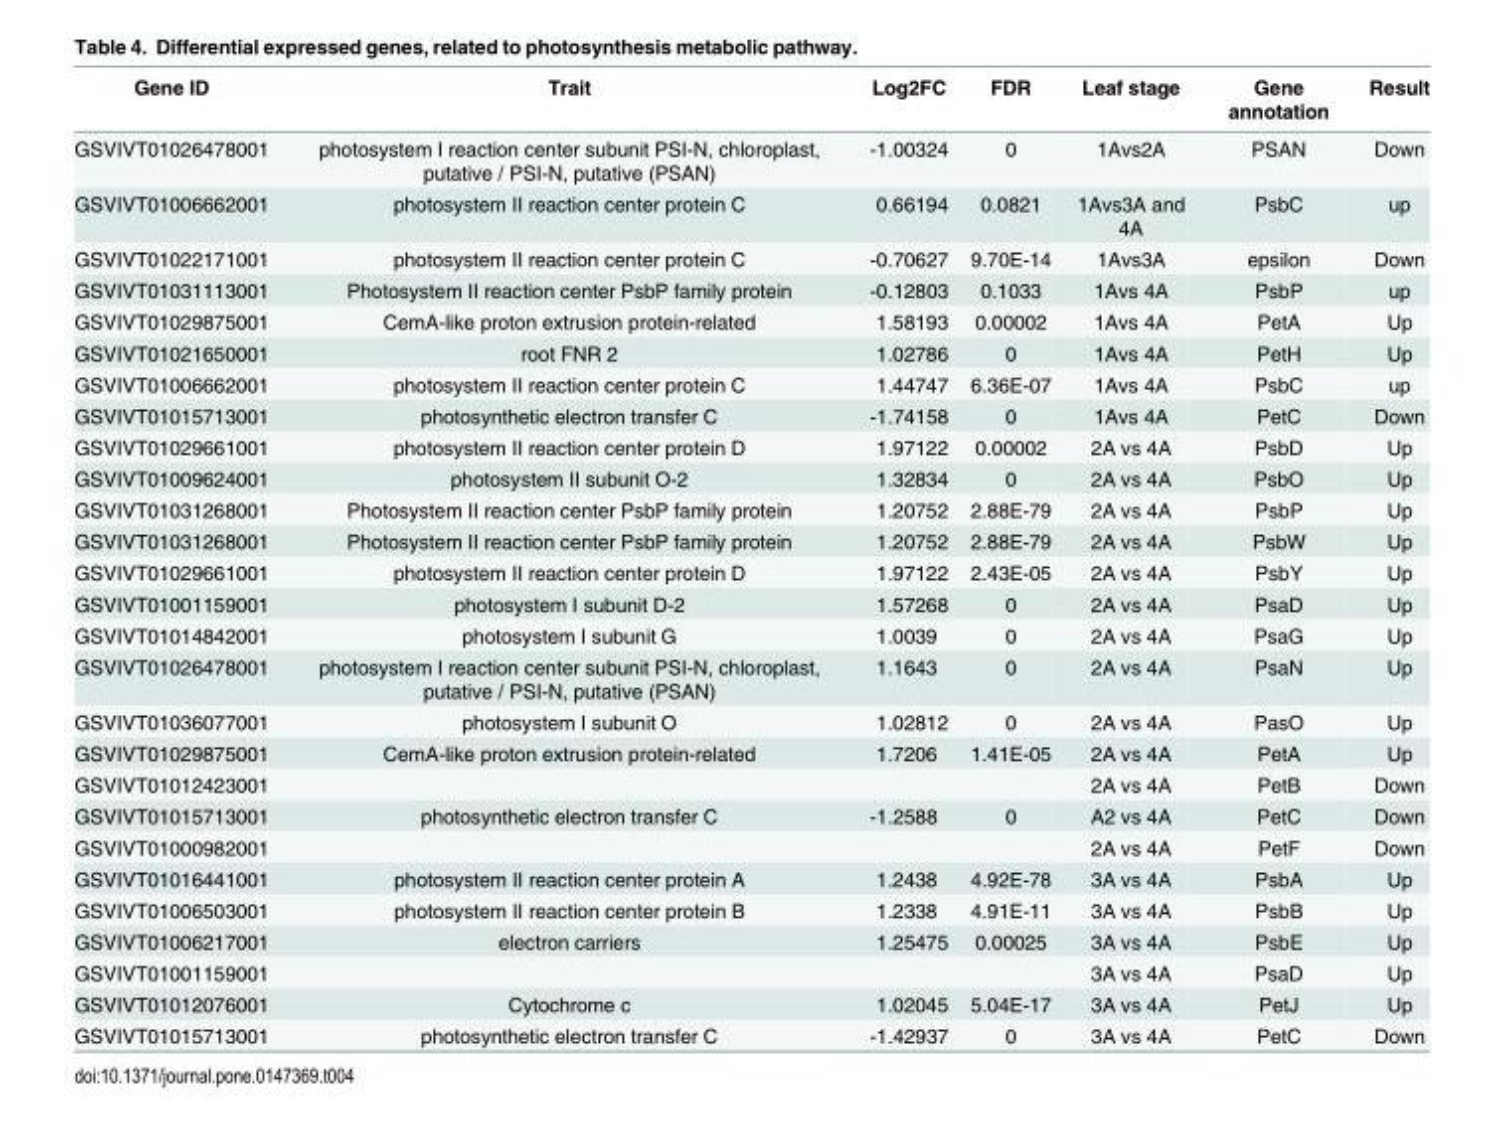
<table><thead><tr><td>Gene ID</td><td>Trait</td><td>Log2FC</td><td>FDR</td><td>Leaf stage</td><td>Gene annotation</td><td>Result</td></tr></thead><tbody><tr><td>GSVIVT01026478001</td><td>photosystem I reaction center subunit PSI-N, chloroplast, putative / PSI-N, putative (PSAN)</td><td>-1.00324</td><td>0</td><td>1Avs2A</td><td>PSAN</td><td>Down</td></tr><tr><td>GSVIVT01006662001</td><td>photosystem II reaction center protein C</td><td>0.66194</td><td>0.0821</td><td>1Avs3A and 4A</td><td>PsbC</td><td>up</td></tr><tr><td>GSVIVT01022171001</td><td>photosystem II reaction center protein C</td><td>-0.70627</td><td>9.70E-14</td><td>1Avs3A</td><td>epsilon</td><td>Down</td></tr><tr><td>GSVIVT01031113001</td><td>Photosystem II reaction center PsbP family protein</td><td>-0.12803</td><td>0.1033</td><td>1Avs 4A</td><td>PsbP</td><td>up</td></tr><tr><td>GSVIVT01029875001</td><td>CemA-like proton extrusion protein-related</td><td>1.58193</td><td>0.00002</td><td>1Avs 4A</td><td>PetA</td><td>Up</td></tr><tr><td>GSVIVT01021650001</td><td>root FNR 2</td><td>1.02786</td><td>0</td><td>1Avs 4A</td><td>PetH</td><td>Up</td></tr><tr><td>GSVIVT01006662001</td><td>photosystem II reaction center protein C</td><td>1.44747</td><td>6.36E-07</td><td>1Avs 4A</td><td>PsbC</td><td>up</td></tr><tr><td>GSVIVT01015713001</td><td>photosynthetic electron transfer C</td><td>-1.74158</td><td>0</td><td>1Avs 4A</td><td>PetC</td><td>Down</td></tr><tr><td>GSVIVT01029661001</td><td>photosystem II reaction center protein D</td><td>1.97122</td><td>0.00002</td><td>2A vs 4A</td><td>PsbD</td><td>Up</td></tr><tr><td>GSVIVT01009624001</td><td>photosystem II subunit O-2</td><td>1.32834</td><td>0</td><td>2A vs 4A</td><td>PsbO</td><td>Up</td></tr><tr><td>GSVIVT01031268001</td><td>Photosystem II reaction center PsbP family protein</td><td>1.20752</td><td>2.88E-79</td><td>2A vs 4A</td><td>PsbP</td><td>Up</td></tr><tr><td>GSVIVT01031268001</td><td>Photosystem II reaction center PsbP family protein</td><td>1.20752</td><td>2.88E-79</td><td>2A vs 4A</td><td>PsbW</td><td>Up</td></tr><tr><td>GSVIVT01029661001</td><td>photosystem II reaction center protein D</td><td>1.97122</td><td>2.43E-05</td><td>2A vs 4A</td><td>PsbY</td><td>Up</td></tr><tr><td>GSVIVT01001159001</td><td>photosystem I subunit D-2</td><td>1.57268</td><td>0</td><td>2A vs 4A</td><td>PsaD</td><td>Up</td></tr><tr><td>GSVIVT01014842001</td><td>photosystem I subunit G</td><td>1.0039</td><td>0</td><td>2A vs 4A</td><td>PsaG</td><td>Up</td></tr><tr><td>GSVIVT01026478001</td><td>photosystem I reaction center subunit PSI-N, chloroplast, putative / PSI-N, putative (PSAN)</td><td>1.1643</td><td>0</td><td>2A vs 4A</td><td>PsaN</td><td>Up</td></tr><tr><td>GSVIVT01036077001</td><td>photosystem I subunit O</td><td>1.02812</td><td>0</td><td>2A vs 4A</td><td>PasO</td><td>Up</td></tr><tr><td>GSVIVT01029875001</td><td>CemA-like proton extrusion protein-related</td><td>1.7206</td><td>1.41E-05</td><td>2A vs 4A</td><td>PetA</td><td>Up</td></tr><tr><td>GSVIVT01012423001</td><td></td><td></td><td></td><td>2A vs 4A</td><td>PetB</td><td>Down</td></tr><tr><td>GSVIVT01015713001</td><td>photosynthetic electron transfer C</td><td>-1.2588</td><td>0</td><td>A2 vs 4A</td><td>PetC</td><td>Down</td></tr><tr><td>GSVIVT01000982001</td><td></td><td></td><td></td><td>2A vs 4A</td><td>PetF</td><td>Down</td></tr><tr><td>GSVIVT01016441001</td><td>photosystem II reaction center protein A</td><td>1.2438</td><td>4.92E-78</td><td>3A vs 4A</td><td>PsbA</td><td>Up</td></tr><tr><td>GSVIVT01006503001</td><td>photosystem II reaction center protein B</td><td>1.2338</td><td>4.91E-11</td><td>3A vs 4A</td><td>PsbB</td><td>Up</td></tr><tr><td>GSVIVT01006217001</td><td>electron carriers</td><td>1.25475</td><td>0.00025</td><td>3A vs 4A</td><td>PsbE</td><td>Up</td></tr><tr><td>GSVIVT01001159001</td><td></td><td></td><td></td><td>3A vs 4A</td><td>PsaD</td><td>Up</td></tr><tr><td>GSVIVT01012076001</td><td>Cytochrome c</td><td>1.02045</td><td>5.04E-17</td><td>3A vs 4A</td><td>PetJ</td><td>Up</td></tr><tr><td>GSVIVT01015713001</td><td>photosynthetic electron transfer C</td><td>-1.42937</td><td>0</td><td>3A vs 4A</td><td>PetC</td><td>Down</td></tr></tbody></table>